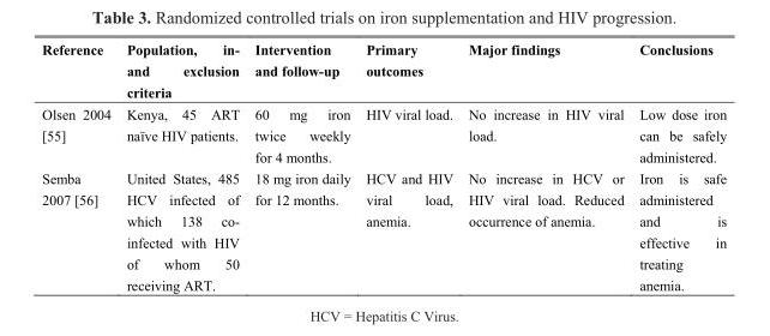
<table><thead><tr><td>Reference</td><td>Population, in- and exclusion criteria</td><td>Intervention and follow-up</td><td>Primary outcomes</td><td>Major findings</td><td>Conclusions</td></tr></thead><tbody><tr><td>Olsen 2004 [55]</td><td>Kenya, 45 ART naïve HIV patients.</td><td>60 mg iron twice weekly for 4 months.</td><td>HIV viral load.</td><td>No increase in HIV viral load.</td><td>Low dose iron can be safely administered.</td></tr><tr><td>Semba 2007 [56]</td><td>United States, 485 HCV infected of which 138 co- infected with HIV of whom 50 receiving ART.</td><td>18 mg iron daily for 12 months.</td><td>HCV and HIV viral load, anemia.</td><td>No increase in HCV or HIV viral load. Reduced occurrence of anemia.</td><td>Iron is safe administered and is effective in treating anemia.</td></tr></tbody></table>